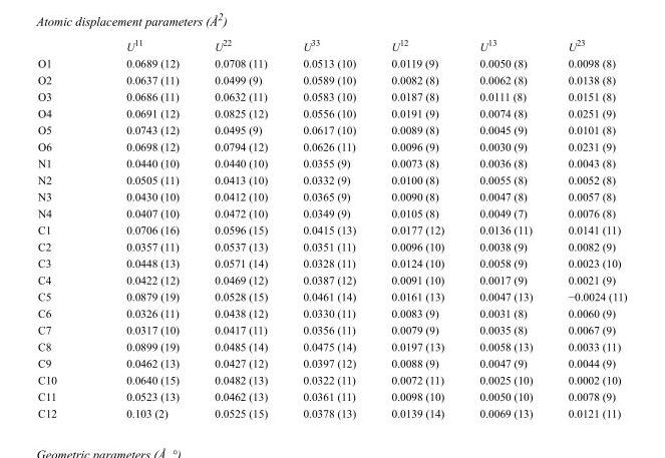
<table><thead><tr><td></td><td>U<sup>11</sup></td><td>U<sup>22</sup></td><td>U<sup>33</sup></td><td>U<sup>12</sup></td><td>U<sup>13</sup></td><td>U<sup>23</sup></td></tr></thead><tbody><tr><td>O1</td><td>0.0689 (12)</td><td>0.0708 (11)</td><td>0.0513 (10)</td><td>0.0119 (9)</td><td>0.0050 (8)</td><td>0.0098 (8)</td></tr><tr><td>O2</td><td>0.0637 (11)</td><td>0.0499 (9)</td><td>0.0589 (10)</td><td>0.0082 (8)</td><td>0.0062 (8)</td><td>0.0138 (8)</td></tr><tr><td>O3</td><td>0.0686 (11)</td><td>0.0632 (11)</td><td>0.0583 (10)</td><td>0.0187 (8)</td><td>0.0111 (8)</td><td>0.0151 (8)</td></tr><tr><td>O4</td><td>0.0691 (12)</td><td>0.0825 (12)</td><td>0.0556 (10)</td><td>0.0191 (9)</td><td>0.0074 (8)</td><td>0.0251 (9)</td></tr><tr><td>O5</td><td>0.0743 (12)</td><td>0.0495 (9)</td><td>0.0617 (10)</td><td>0.0089 (8)</td><td>0.0045 (9)</td><td>0.0101 (8)</td></tr><tr><td>O6</td><td>0.0698 (12)</td><td>0.0794 (12)</td><td>0.0626 (11)</td><td>0.0096 (9)</td><td>0.0030 (9)</td><td>0.0231 (9)</td></tr><tr><td>N1</td><td>0.0440 (10)</td><td>0.0440 (10)</td><td>0.0355 (9)</td><td>0.0073 (8)</td><td>0.0036 (8)</td><td>0.0043 (8)</td></tr><tr><td>N2</td><td>0.0505 (11)</td><td>0.0413 (10)</td><td>0.0332 (9)</td><td>0.0100 (8)</td><td>0.0055 (8)</td><td>0.0052 (8)</td></tr><tr><td>N3</td><td>0.0430 (10)</td><td>0.0412 (10)</td><td>0.0365 (9)</td><td>0.0090 (8)</td><td>0.0047 (8)</td><td>0.0057 (8)</td></tr><tr><td>N4</td><td>0.0407 (10)</td><td>0.0472 (10)</td><td>0.0349 (9)</td><td>0.0105 (8)</td><td>0.0049 (7)</td><td>0.0076 (8)</td></tr><tr><td>C1</td><td>0.0706 (16)</td><td>0.0596 (15)</td><td>0.0415 (13)</td><td>0.0177 (12)</td><td>0.0136 (11)</td><td>0.0141 (11)</td></tr><tr><td>C2</td><td>0.0357 (11)</td><td>0.0537 (13)</td><td>0.0351 (11)</td><td>0.0096 (10)</td><td>0.0038 (9)</td><td>0.0082 (9)</td></tr><tr><td>C3</td><td>0.0448 (13)</td><td>0.0571 (14)</td><td>0.0328 (11)</td><td>0.0124 (10)</td><td>0.0058 (9)</td><td>0.0023 (10)</td></tr><tr><td>C4</td><td>0.0422 (12)</td><td>0.0469 (12)</td><td>0.0387 (12)</td><td>0.0091 (10)</td><td>0.0017 (9)</td><td>0.0021 (9)</td></tr><tr><td>C5</td><td>0.0879 (19)</td><td>0.0528 (15)</td><td>0.0461 (14)</td><td>0.0161 (13)</td><td>0.0047 (13)</td><td>−0.0024 (11)</td></tr><tr><td>C6</td><td>0.0326 (11)</td><td>0.0438 (12)</td><td>0.0330 (11)</td><td>0.0083 (9)</td><td>0.0031 (8)</td><td>0.0060 (9)</td></tr><tr><td>C7</td><td>0.0317 (10)</td><td>0.0417 (11)</td><td>0.0356 (11)</td><td>0.0079 (9)</td><td>0.0035 (8)</td><td>0.0067 (9)</td></tr><tr><td>C8</td><td>0.0899 (19)</td><td>0.0485 (14)</td><td>0.0475 (14)</td><td>0.0197 (13)</td><td>0.0058 (13)</td><td>0.0033 (11)</td></tr><tr><td>C9</td><td>0.0462 (13)</td><td>0.0427 (12)</td><td>0.0397 (12)</td><td>0.0088 (9)</td><td>0.0047 (9)</td><td>0.0044 (9)</td></tr><tr><td>C10</td><td>0.0640 (15)</td><td>0.0482 (13)</td><td>0.0322 (11)</td><td>0.0072 (11)</td><td>0.0025 (10)</td><td>0.0002 (10)</td></tr><tr><td>C11</td><td>0.0523 (13)</td><td>0.0462 (13)</td><td>0.0361 (11)</td><td>0.0098 (10)</td><td>0.0050 (10)</td><td>0.0078 (9)</td></tr><tr><td>C12</td><td>0.103 (2)</td><td>0.0525 (15)</td><td>0.0378 (13)</td><td>0.0139 (14)</td><td>0.0069 (13)</td><td>0.0121 (11)</td></tr></tbody></table>